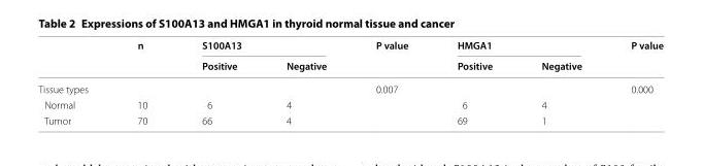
<table><thead><tr><td rowspan="2"></td><td rowspan="2">n</td><td colspan="2">S100A13</td><td rowspan="2">P value</td><td colspan="2">HMGA1</td><td rowspan="2">P value</td></tr><tr><td>Positive</td><td>Negative</td><td>Positive</td><td>Negative</td></tr></thead><tbody><tr><td>Tissue types</td><td></td><td></td><td></td><td>0.007</td><td></td><td></td><td>0.000</td></tr><tr><td>Normal</td><td>10</td><td>6</td><td>4</td><td></td><td>6</td><td>4</td><td></td></tr><tr><td>Tumor</td><td>70</td><td>66</td><td>4</td><td></td><td>69</td><td>1</td><td></td></tr></tbody></table>